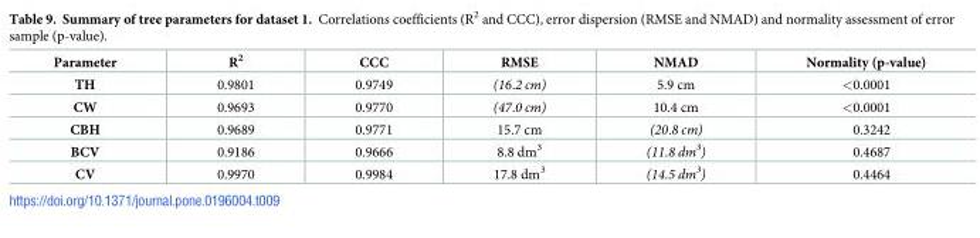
<table><thead><tr><td>Parameter</td><td>R<sup>2</sup></td><td>CCC</td><td>RMSE</td><td>NMAD</td><td>Normality (p-value)</td></tr></thead><tbody><tr><td>TH</td><td>0.9801</td><td>0.9749</td><td>(16.2 cm)</td><td>5.9 cm</td><td>&lt;0.0001</td></tr><tr><td>CW</td><td>0.9693</td><td>0.9770</td><td>(47.0 cm)</td><td>10.4 cm</td><td>&lt;0.0001</td></tr><tr><td>CBH</td><td>0.9689</td><td>0.9771</td><td>15.7 cm</td><td>(20.8 cm)</td><td>0.3242</td></tr><tr><td>BCV</td><td>0.9186</td><td>0.9666</td><td>8.8 dm<sup>3</sup></td><td>(11.8 dm<sup>3</sup>)</td><td>0.4687</td></tr><tr><td>CV</td><td>0.9970</td><td>0.9984</td><td>17.8 dm<sup>3</sup></td><td>(14.5 dm<sup>3</sup>)</td><td>0.4464</td></tr></tbody></table>